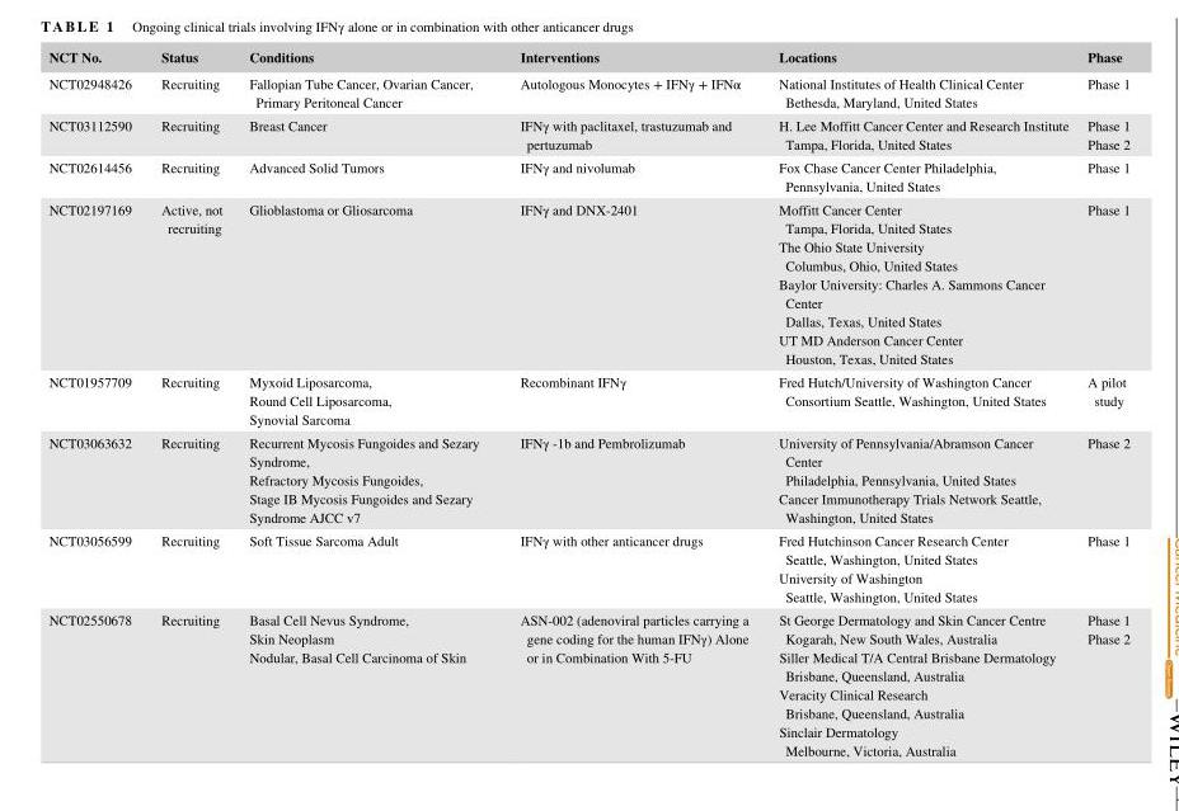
<table><thead><tr><td>NCT No.</td><td>Status</td><td>Conditions</td><td>Interventions</td><td>Locations</td><td>Phase</td></tr></thead><tbody><tr><td>NCT02948426</td><td>Recruiting</td><td>Fallopian Tube Cancer, Ovarian Cancer, Primary Peritoneal Cancer</td><td>Autologous Monocytes + IFNγ + IFNα</td><td>National Institutes of Health Clinical Center Bethesda, Maryland, United States</td><td>Phase 1</td></tr><tr><td>NCT03112590</td><td>Recruiting</td><td>Breast Cancer</td><td>IFNγ with paclitaxel, trastuzumab and pertuzumab</td><td>H. Lee Moffitt Cancer Center and Research Institute Tampa, Florida, United States</td><td>Phase 1 Phase 2</td></tr><tr><td>NCT02614456</td><td>Recruiting</td><td>Advanced Solid Tumors</td><td>IFNγ and nivolumab</td><td>Fox Chase Cancer Center Philadelphia, Pennsylvania, United States</td><td>Phase 1</td></tr><tr><td>NCT02197169</td><td>Active, not recruiting</td><td>Glioblastoma or Gliosarcoma</td><td>IFNγ and DNX- 2401</td><td>Moffitt Cancer Center Tampa, Florida, United States The Ohio State University Columbus, Ohio, United States Baylor University: Charles A. Sammons Cancer Center Dallas, Texas, United States UT MD Anderson Cancer Center Houston, Texas, United States</td><td>Phase 1</td></tr><tr><td>NCT01957709</td><td>Recruiting</td><td>Myxoid Liposarcoma, Round Cell Liposarcoma, Synovial Sarcoma</td><td>Recombinant IFNγ</td><td>Fred Hutch/University of Washington Cancer Consortium Seattle, Washington, United States</td><td>A pilot study</td></tr><tr><td>NCT03063632</td><td>Recruiting</td><td>Recurrent Mycosis Fungoides and Sezary Syndrome, Refractory Mycosis Fungoides, Stage IB Mycosis Fungoides and Sezary Syndrome AJCC v7</td><td>IFNγ - 1b and Pembrolizumab</td><td>University of Pennsylvania/Abramson Cancer Center Philadelphia, Pennsylvania, United States Cancer Immunotherapy Trials Network Seattle, Washington, United States</td><td>Phase 2</td></tr><tr><td>NCT03056599</td><td>Recruiting</td><td>Soft Tissue Sarcoma Adult</td><td>IFNγ with other anticancer drugs</td><td>Fred Hutchinson Cancer Research Center Seattle, Washington, United States University of Washington Seattle, Washington, United States</td><td>Phase 1</td></tr><tr><td>NCT02550678</td><td>Recruiting</td><td>Basal Cell Nevus Syndrome, Skin Neoplasm Nodular, Basal Cell Carcinoma of Skin</td><td>ASN- 002 (adenoviral particles carrying a gene coding for the human IFNγ) Alone or in Combination With 5- FU</td><td>St George Dermatology and Skin Cancer Centre Kogarah, New South Wales, Australia Siller Medical T/A Central Brisbane Dermatology Brisbane, Queensland, Australia Veracity Clinical Research Brisbane, Queensland, Australia Sinclair Dermatology Melbourne, Victoria, Australia</td><td>Phase 1 Phase 2</td></tr></tbody></table>